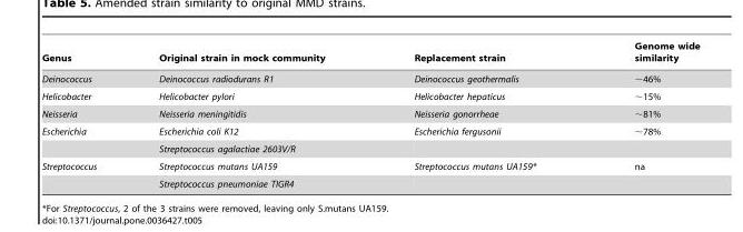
<table><thead><tr><td>Genus</td><td>Original strain in mock community</td><td>Replacement strain</td><td>Genome wide similarity</td></tr></thead><tbody><tr><td>Deinococcus</td><td>Deinococcus radiodurans R1</td><td>Deinococcus geothermalis</td><td>∼46%</td></tr><tr><td>Helicobacter</td><td>Helicobacter pylori</td><td>Helicobacter hepaticus</td><td>∼15%</td></tr><tr><td>Neisseria</td><td>Neisseria meningitidis</td><td>Neisseria gonorrheae</td><td>∼81%</td></tr><tr><td rowspan="2">Escherichia</td><td>Escherichia coli K12</td><td>Escherichia fergusonii</td><td>∼78%</td></tr><tr><td>Streptococcus agalactiae 2603V/R</td><td></td><td></td></tr><tr><td rowspan="2">Streptococcus</td><td>Streptococcus mutans UA159</td><td>Streptococcus mutans UA159*</td><td>na</td></tr><tr><td>Streptococcus pneumoniae TIGR4</td><td></td><td></td></tr></tbody></table>